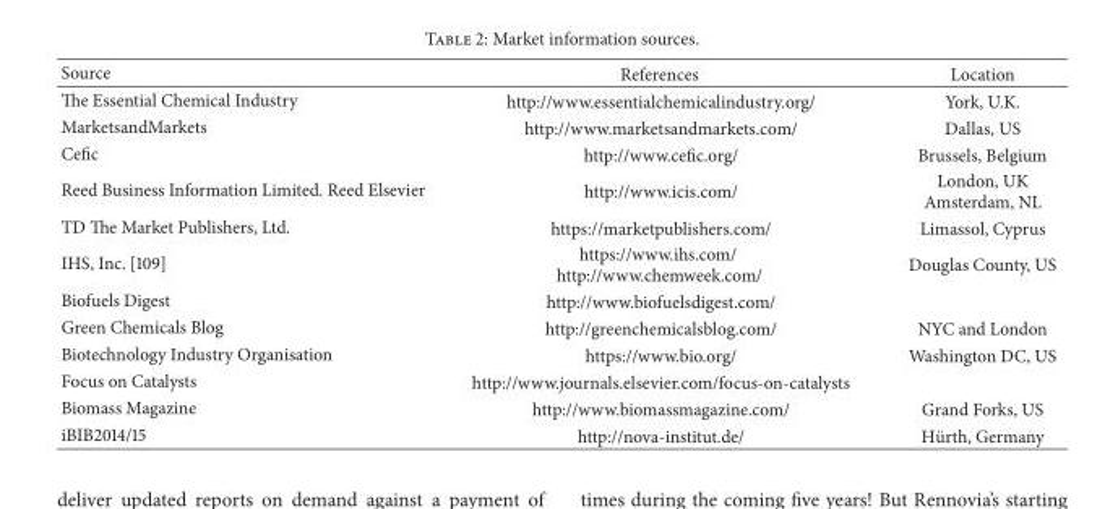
<table><thead><tr><td>Source</td><td>References</td><td>Location</td></tr></thead><tbody><tr><td>The Essential Chemical Industry</td><td>http://www.essentialchemicalindustry.org/</td><td>York, U.K.</td></tr><tr><td>MarketsandMarkets</td><td>http://www.marketsandmarkets.com/</td><td>Dallas, US</td></tr><tr><td>Cefic</td><td>http://www.cefic.org/</td><td>Brussels, Belgium</td></tr><tr><td>Reed Business Information Limited. Reed Elsevier</td><td>http://www.icis.com/</td><td>London, UK Amsterdam, NL</td></tr><tr><td>TD The Market Publishers, Ltd.</td><td>https://marketpublishers.com/</td><td>Limassol, Cyprus</td></tr><tr><td>IHS, Inc. [109]</td><td>https://www.ihs.com/ http://www.chemweek.com/</td><td>Douglas County, US</td></tr><tr><td>Biofuels Digest</td><td>http://www.biofuelsdigest.com/</td><td></td></tr><tr><td>Green Chemicals Blog</td><td>http://greenchemicalsblog.com/</td><td>NYC and London</td></tr><tr><td>Biotechnology Industry Organisation</td><td>https://www.bio.org/</td><td>Washington DC, US</td></tr><tr><td>Focus on Catalysts</td><td>http://www.journals.elsevier.com/focus-on-catalysts</td><td></td></tr><tr><td>Biomass Magazine</td><td>http://www.biomassmagazine.com/</td><td>Grand Forks, US</td></tr><tr><td>iBIB2014/15</td><td>http://nova-institut.de/</td><td>H¨urth, Germany</td></tr></tbody></table>